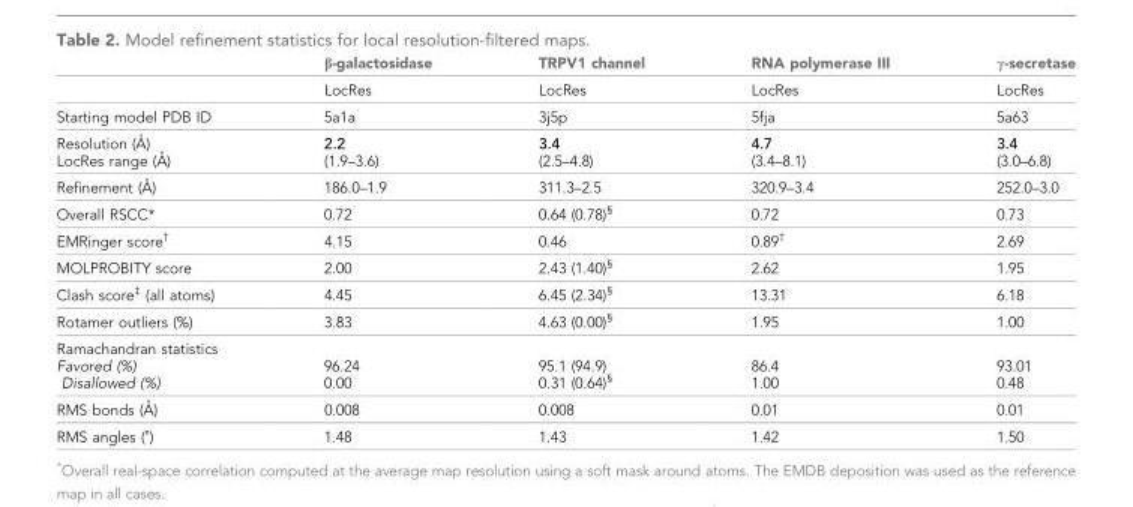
<table><thead><tr><td></td><td>β-galactosidase</td><td>TRPV1 channel</td><td>RNA polymerase III</td><td>γ-secretase</td></tr></thead><tbody><tr><td></td><td>LocRes</td><td>LocRes</td><td>LocRes</td><td>LocRes</td></tr><tr><td>Starting model PDB ID</td><td>5a1a</td><td>3j5p</td><td>5fja</td><td>5a63</td></tr><tr><td>Resolution (A˚ ) LocRes range (A˚ )</td><td>2.2 (1.9–3.6)</td><td>3.4 (2.5–4.8)</td><td>4.7 (3.4–8.1)</td><td>3.4 (3.0–6.8)</td></tr><tr><td>Refinement (A˚ )</td><td>186.0–1.9</td><td>311.3–2.5</td><td>320.9–3.4</td><td>252.0–3.0</td></tr><tr><td>Overall RSCC*</td><td>0.72</td><td>0.64 (0.78)<sup>§</sup></td><td>0.72</td><td>0.73</td></tr><tr><td>EMRinger score<sup>†</sup></td><td>4.15</td><td>0.46</td><td>0.89<sup>†</sup></td><td>2.69</td></tr><tr><td>MOLPROBITY score</td><td>2.00</td><td>2.43 (1.40)<sup>§</sup></td><td>2.62</td><td>1.95</td></tr><tr><td>Clash score<sup>‡</sup> (all atoms)</td><td>4.45</td><td>6.45 (2.34)<sup>§</sup></td><td>13.31</td><td>6.18</td></tr><tr><td>Rotamer outliers (%)</td><td>3.83</td><td>4.63 (0.00)<sup>§</sup></td><td>1.95</td><td>1.00</td></tr><tr><td>Ramachandran statistics Favored (%) Disallowed (%)</td><td>96.24 0.00</td><td>95.1 (94.9) 0.31 (0.64)<sup>§</sup></td><td>86.4 1.00</td><td>93.01 0.48</td></tr><tr><td>RMS bonds (A˚ )</td><td>0.008</td><td>0.008</td><td>0.01</td><td>0.01</td></tr><tr><td>RMS angles (˚)</td><td>1.48</td><td>1.43</td><td>1.42</td><td>1.50</td></tr></tbody></table>